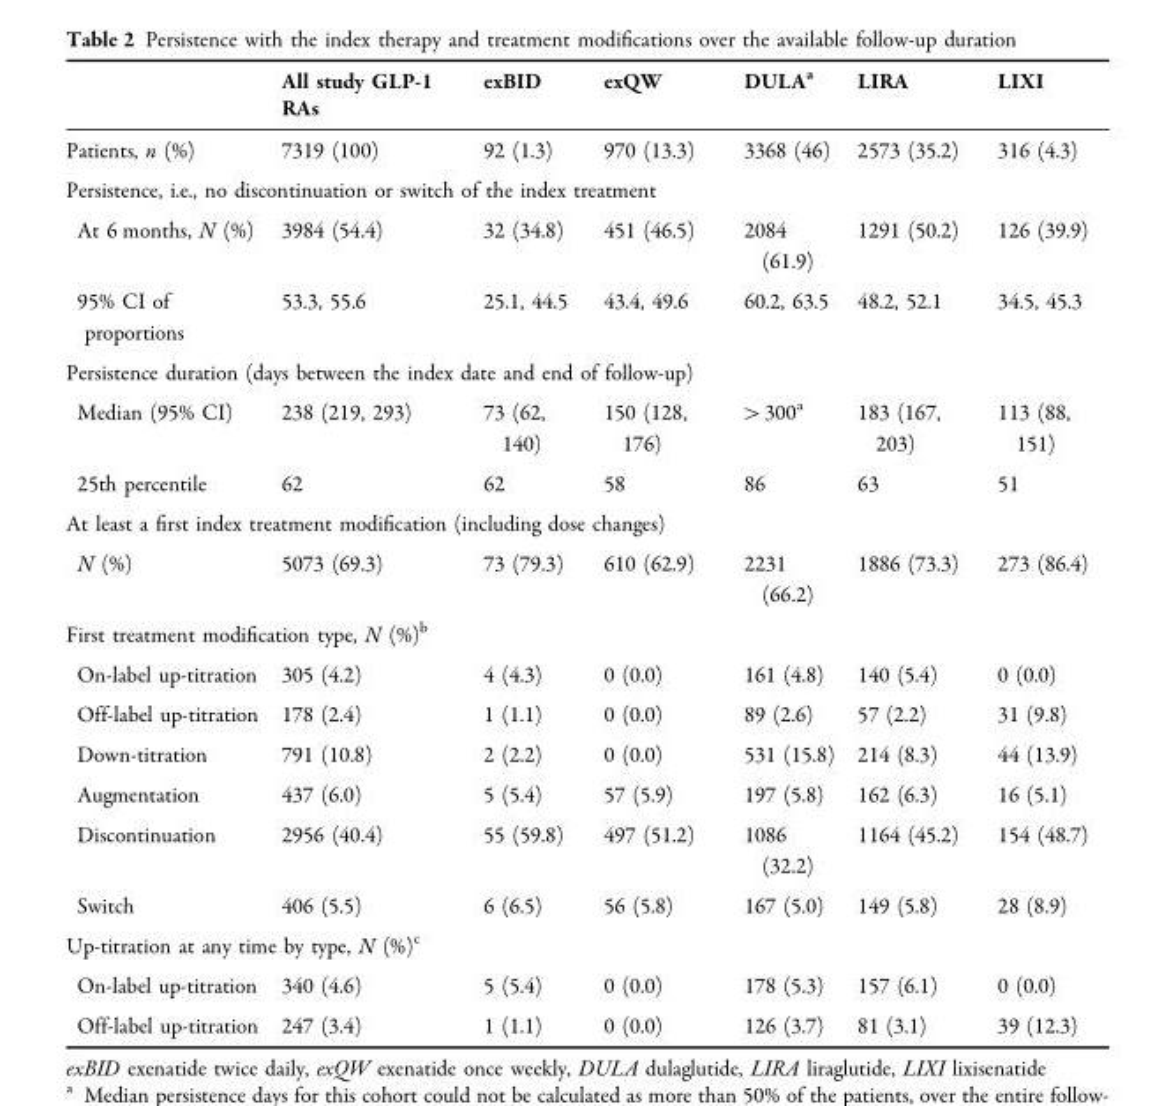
<table><thead><tr><td></td><td>All study GLP-1 RAs</td><td>exBID</td><td>exQW</td><td>DULA<sup>a</sup></td><td>LIRA</td><td>LIXI</td></tr></thead><tbody><tr><td>Patients, n (%)</td><td>7319 (100)</td><td>92 (1.3)</td><td>970 (13.3)</td><td>3368 (46)</td><td>2573 (35.2)</td><td>316 (4.3)</td></tr><tr><td colspan="7">Persistence, i.e., no discontinuation or switch of the index treatment</td></tr><tr><td>At 6 months, N (%)</td><td>3984 (54.4)</td><td>32 (34.8)</td><td>451 (46.5)</td><td>2084 (61.9)</td><td>1291 (50.2)</td><td>126 (39.9)</td></tr><tr><td>95% CI of proportions</td><td>53.3, 55.6</td><td>25.1, 44.5</td><td>43.4, 49.6</td><td>60.2, 63.5</td><td>48.2, 52.1</td><td>34.5, 45.3</td></tr><tr><td colspan="7">Persistence duration (days between the index date and end of follow-up)</td></tr><tr><td>Median (95% CI)</td><td>238 (219, 293)</td><td>73 (62, 140)</td><td>150 (128, 176)</td><td>&gt;300<sup>a</sup></td><td>183 (167, 203)</td><td>113 (88, 151)</td></tr><tr><td>25th percentile</td><td>62</td><td>62</td><td>58</td><td>86</td><td>63</td><td>51</td></tr><tr><td colspan="7">At least a first index treatment modification (including dose changes)</td></tr><tr><td>N (%)</td><td>5073 (69.3)</td><td>73 (79.3)</td><td>610 (62.9)</td><td>2231 (66.2)</td><td>1886 (73.3)</td><td>273 (86.4)</td></tr><tr><td colspan="7">First treatment modification type, N (%)<sup>b</sup></td></tr><tr><td>On-label up-titration</td><td>305 (4.2)</td><td>4 (4.3)</td><td>0 (0.0)</td><td>161 (4.8)</td><td>140 (5.4)</td><td>0 (0.0)</td></tr><tr><td>Off-label up-titration</td><td>178 (2.4)</td><td>1 (1.1)</td><td>0 (0.0)</td><td>89 (2.6)</td><td>57 (2.2)</td><td>31 (9.8)</td></tr><tr><td>Down-titration</td><td>791 (10.8)</td><td>2 (2.2)</td><td>0 (0.0)</td><td>531 (15.8)</td><td>214 (8.3)</td><td>44 (13.9)</td></tr><tr><td>Augmentation</td><td>437 (6.0)</td><td>5 (5.4)</td><td>57 (5.9)</td><td>197 (5.8)</td><td>162 (6.3)</td><td>16 (5.1)</td></tr><tr><td>Discontinuation</td><td>2956 (40.4)</td><td>55 (59.8)</td><td>497 (51.2)</td><td>1086 (32.2)</td><td>1164 (45.2)</td><td>154 (48.7)</td></tr><tr><td>Switch</td><td>406 (5.5)</td><td>6 (6.5)</td><td>56 (5.8)</td><td>167 (5.0)</td><td>149 (5.8)</td><td>28 (8.9)</td></tr><tr><td colspan="7">Up-titration at any time by type, N (%)<sup>c</sup></td></tr><tr><td>On-label up-titration</td><td>340 (4.6)</td><td>5 (5.4)</td><td>0 (0.0)</td><td>178 (5.3)</td><td>157 (6.1)</td><td>0 (0.0)</td></tr><tr><td>Off-label up-titration</td><td>247 (3.4)</td><td>1 (1.1)</td><td>0 (0.0)</td><td>126 (3.7)</td><td>81 (3.1)</td><td>39 (12.3)</td></tr></tbody></table>